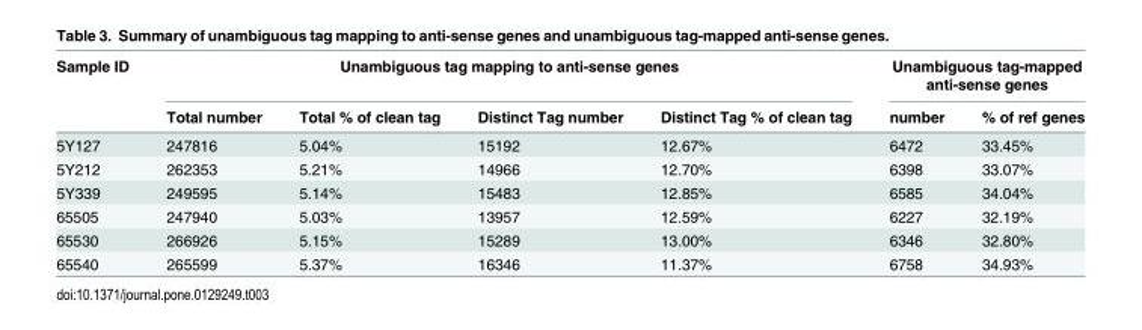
<table><thead><tr><td rowspan="2">Sample ID</td><td colspan="4">Unambiguous tag mapping to anti-sense genes</td><td colspan="2">Unambiguous tag-mapped anti-sense genes</td></tr><tr><td>Total number</td><td>Total % of clean tag</td><td>Distinct Tag number</td><td>Distinct Tag % of clean tag</td><td>number</td><td>% of ref genes</td></tr></thead><tbody><tr><td>5Y127</td><td>247816</td><td>5.04%</td><td>15192</td><td>12.67%</td><td>6472</td><td>33.45%</td></tr><tr><td>5Y212</td><td>262353</td><td>5.21%</td><td>14966</td><td>12.70%</td><td>6398</td><td>33.07%</td></tr><tr><td>5Y339</td><td>249595</td><td>5.14%</td><td>15483</td><td>12.85%</td><td>6585</td><td>34.04%</td></tr><tr><td>65505</td><td>247940</td><td>5.03%</td><td>13957</td><td>12.59%</td><td>6227</td><td>32.19%</td></tr><tr><td>65530</td><td>266926</td><td>5.15%</td><td>15289</td><td>13.00%</td><td>6346</td><td>32.80%</td></tr><tr><td>65540</td><td>265599</td><td>5.37%</td><td>16346</td><td>11.37%</td><td>6758</td><td>34.93%</td></tr></tbody></table>